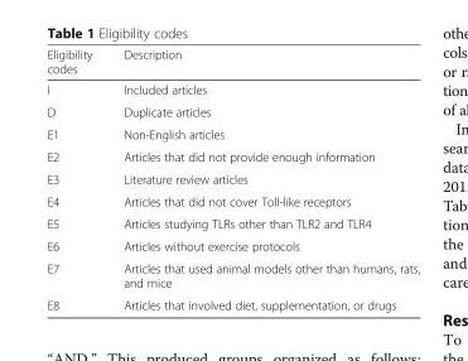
<table><thead><tr><td>Eligibility codes</td><td>Description</td></tr></thead><tbody><tr><td>I</td><td>Included articles</td></tr><tr><td>D</td><td>Duplicate articles</td></tr><tr><td>E1</td><td>Non-English articles</td></tr><tr><td>E2</td><td>Articles that did not provide enough information</td></tr><tr><td>E3</td><td>Literature review articles</td></tr><tr><td>E4</td><td>Articles that did not cover Toll-like receptors</td></tr><tr><td>E5</td><td>Articles studying TLRs other than TLR2 and TLR4</td></tr><tr><td>E6</td><td>Articles without exercise protocols</td></tr><tr><td>E7</td><td>Articles that used animal models other than humans, rats, and mice</td></tr><tr><td>E8</td><td>Articles that involved diet, supplementation, or drugs</td></tr></tbody></table>